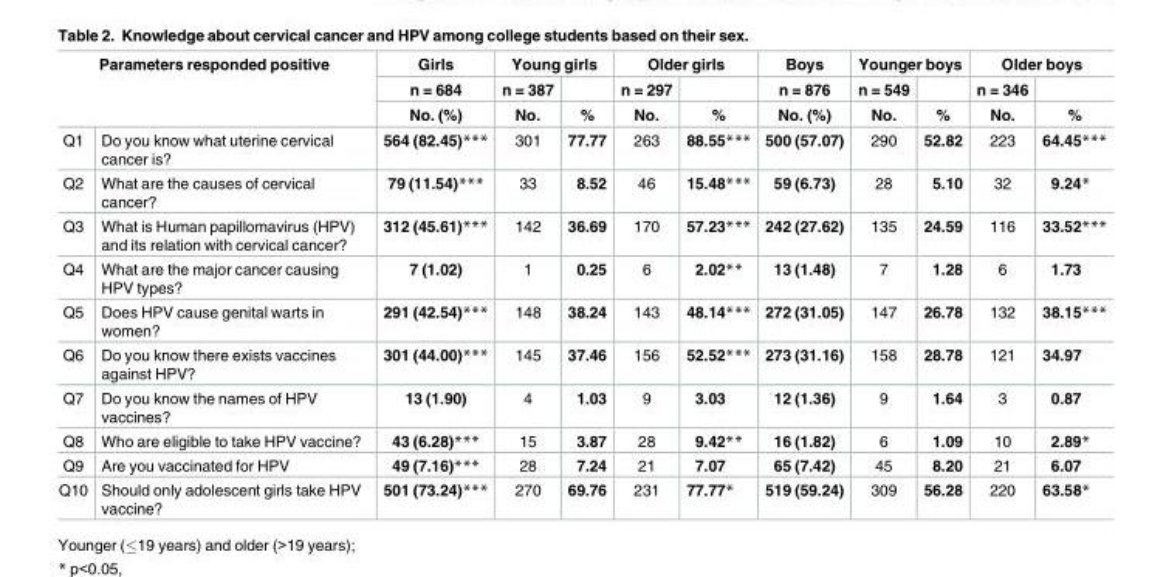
<table><thead><tr><td rowspan="3" colspan="2">Parameters responded positive</td><td rowspan="4">Girls n = 684 No. (%) 564 (82.45)***</td><td colspan="2">Young girls</td><td colspan="2">Older girls</td><td rowspan="4">Boys n = 876 No. (%) 500 (57.07)</td><td colspan="2">Younger boys</td><td colspan="2">Older boys</td></tr><tr><td rowspan="3">n = 387 No. 301</td><td rowspan="3">% 77.77</td><td rowspan="3">n = 297 No. 263</td><td rowspan="3">% 88.55***</td><td rowspan="3">n = 549 No. 290</td><td rowspan="3">% 52.82</td><td rowspan="3">n = 346 No. 223</td><td rowspan="3">% 64.45***</td></tr><tr></tr><tr><td>Q1</td><td>Do you know what uterine cervical cancer is?</td></tr></thead><tbody><tr><td>Q2</td><td>What are the causes of cervical cancer?</td><td>79 (11.54)***</td><td>33</td><td>8.52</td><td>46</td><td>15.48***</td><td>59 (6.73)</td><td>28</td><td>5.10</td><td>32</td><td>9.24*</td></tr><tr><td>Q3</td><td>What is Human papillomavirus (HPV) and its relation with cervical cancer?</td><td>312 (45.61)***</td><td>142</td><td>36.69</td><td>170</td><td>57.23***</td><td>242 (27.62)</td><td>135</td><td>24.59</td><td>116</td><td>33.52***</td></tr><tr><td>Q4</td><td>What are the major cancer causing HPV types?</td><td>7 (1.02)</td><td>1</td><td>0.25</td><td>6</td><td>2.02**</td><td>13 (1.48)</td><td>7</td><td>1.28</td><td>6</td><td>1.73</td></tr><tr><td>Q5</td><td>Does HPV cause genital warts in women?</td><td>291 (42.54)***</td><td>148</td><td>38.24</td><td>143</td><td>48.14***</td><td>272 (31.05)</td><td>147</td><td>26.78</td><td>132</td><td>38.15***</td></tr><tr><td>Q6</td><td>Do you know there exists vaccines against HPV?</td><td>301 (44.00)***</td><td>145</td><td>37.46</td><td>156</td><td>52.52***</td><td>273 (31.16)</td><td>158</td><td>28.78</td><td>121</td><td>34.97</td></tr><tr><td>Q7</td><td>Do you know the names of HPV vaccines?</td><td>13 (1.90)</td><td>4</td><td>1.03</td><td>9</td><td>3.03</td><td>12 (1.36)</td><td>9</td><td>1.64</td><td>3</td><td>0.87</td></tr><tr><td>Q8</td><td>Who are eligible to take HPV vaccine?</td><td>43 (6.28)***</td><td>15</td><td>3.87</td><td>28</td><td>9.42**</td><td>16 (1.82)</td><td>6</td><td>1.09</td><td>10</td><td>2.89*</td></tr><tr><td>Q9</td><td>Are you vaccinated for HPV</td><td>49 (7.16)***</td><td>28</td><td>7.24</td><td>21</td><td>7.07</td><td>65 (7.42)</td><td>45</td><td>8.20</td><td>21</td><td>6.07</td></tr><tr><td>Q10</td><td>Should only adolescent girls take HPV vaccine?</td><td>501 (73.24)***</td><td>270</td><td>69.76</td><td>231</td><td>77.77*</td><td>519 (59.24)</td><td>309</td><td>56.28</td><td>220</td><td>63.58*</td></tr></tbody></table>